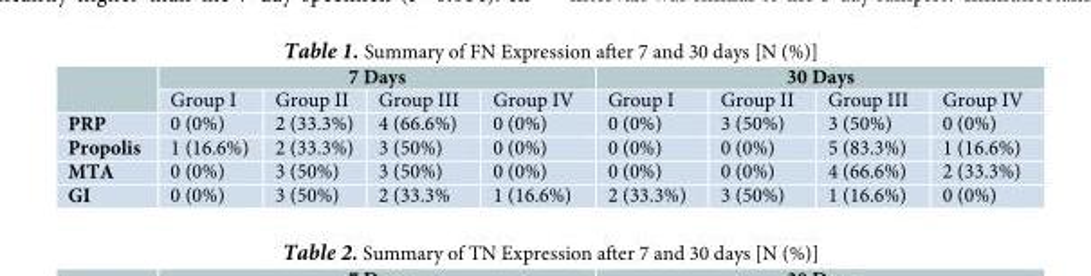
<table><thead><tr><td rowspan="2"></td><td colspan="4">7 Days</td><td colspan="4">30 Days</td></tr><tr><td>Group I</td><td>Group II</td><td>Group III</td><td>Group IV</td><td>Group I</td><td>Group II</td><td>Group III</td><td>Group IV</td></tr></thead><tbody><tr><td>PRP</td><td>0 (0%)</td><td>2 (33.3%)</td><td>4 (66.6%)</td><td>0 (0%)</td><td>0 (0%)</td><td>3 (50%)</td><td>3 (50%)</td><td>0 (0%)</td></tr><tr><td>Propolis</td><td>1 (16.6%)</td><td>2 (33.3%)</td><td>3 (50%)</td><td>0 (0%)</td><td>0 (0%)</td><td>0 (0%)</td><td>5 (83.3%)</td><td>1 (16.6%)</td></tr><tr><td>MTA</td><td>0 (0%)</td><td>3 (50%)</td><td>3 (50%)</td><td>0 (0%)</td><td>0 (0%)</td><td>0 (0%)</td><td>4 (66.6%)</td><td>2 (33.3%)</td></tr><tr><td>GI</td><td>0 (0%)</td><td>3 (50%)</td><td>2 (33.3%</td><td>1 (16.6%)</td><td>2 (33.3%)</td><td>3 (50%)</td><td>1 (16.6%)</td><td>0 (0%)</td></tr></tbody></table>